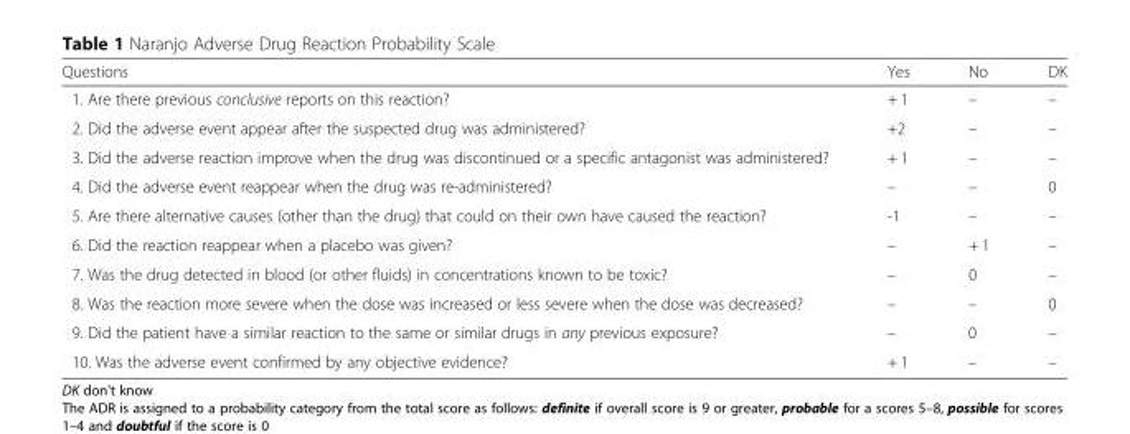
<table><thead><tr><td>Questions</td><td>Yes</td><td>No</td><td>DK</td></tr></thead><tbody><tr><td>1. Are there previous conclusive reports on this reaction?</td><td>+ 1</td><td>–</td><td>–</td></tr><tr><td>2. Did the adverse event appear after the suspected drug was administered?</td><td>+2</td><td>–</td><td>–</td></tr><tr><td>3. Did the adverse reaction improve when the drug was discontinued or a specific antagonist was administered?</td><td>+ 1</td><td>–</td><td>–</td></tr><tr><td>4. Did the adverse event reappear when the drug was re-administered?</td><td>–</td><td>–</td><td>0</td></tr><tr><td>5. Are there alternative causes (other than the drug) that could on their own have caused the reaction?</td><td>-1</td><td>–</td><td>–</td></tr><tr><td>6. Did the reaction reappear when a placebo was given?</td><td>–</td><td>+ 1</td><td>–</td></tr><tr><td>7. Was the drug detected in blood (or other fluids) in concentrations known to be toxic?</td><td>–</td><td>0</td><td>–</td></tr><tr><td>8. Was the reaction more severe when the dose was increased or less severe when the dose was decreased?</td><td>–</td><td>–</td><td>0</td></tr><tr><td>9. Did the patient have a similar reaction to the same or similar drugs in any previous exposure?</td><td>–</td><td>0</td><td>–</td></tr><tr><td>10. Was the adverse event confirmed by any objective evidence?</td><td>+ 1</td><td>–</td><td>–</td></tr></tbody></table>